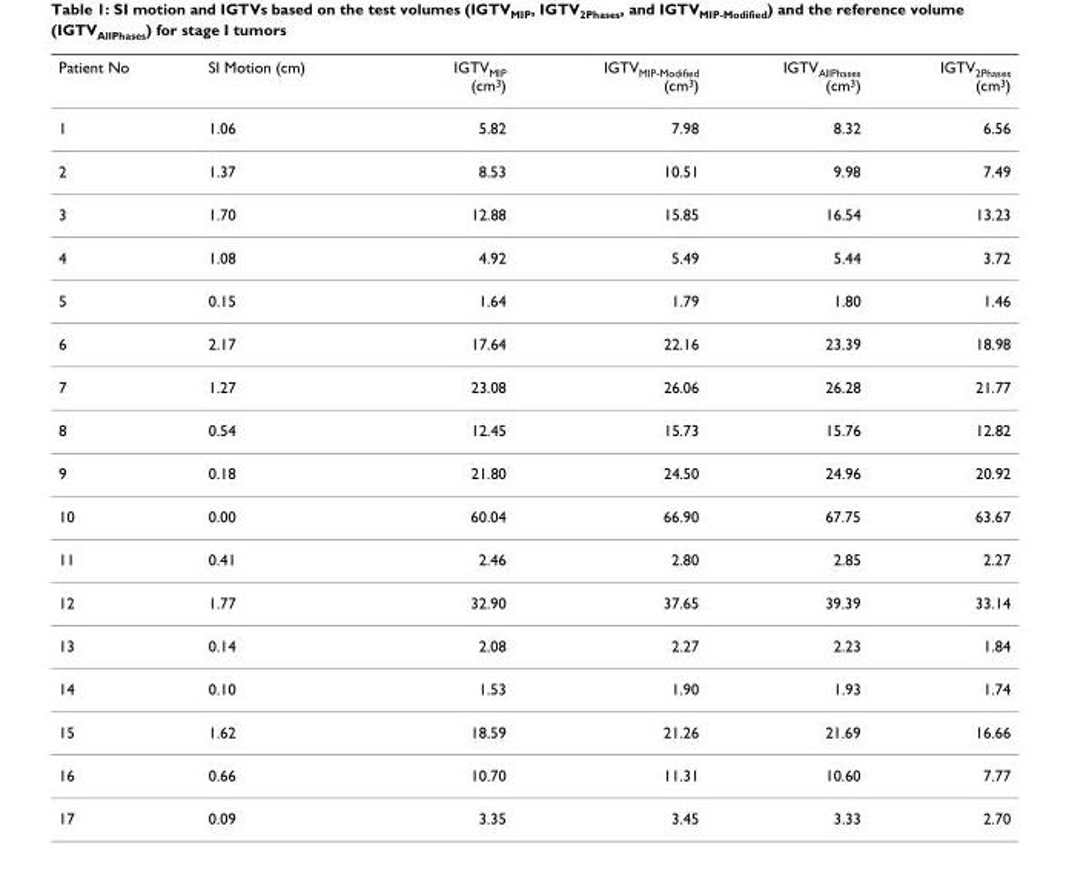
<table><thead><tr><td>Patient No</td><td>SI Motion (cm)</td><td>IGTV<sub>MIP</sub> (cm<sup>3</sup>)</td><td>IGTV<sub>MIP-Modified</sub> (cm<sup>3</sup>)</td><td>IGTV<sub>AllPhases</sub> (cm<sup>3</sup>)</td><td>IGTV<sub>2Phases</sub> (cm<sup>3</sup>)</td></tr></thead><tbody><tr><td>1</td><td>1.06</td><td>5.82</td><td>7.98</td><td>8.32</td><td>6.56</td></tr><tr><td>2</td><td>1.37</td><td>8.53</td><td>10.51</td><td>9.98</td><td>7.49</td></tr><tr><td>3</td><td>1.70</td><td>12.88</td><td>15.85</td><td>16.54</td><td>13.23</td></tr><tr><td>4</td><td>1.08</td><td>4.92</td><td>5.49</td><td>5.44</td><td>3.72</td></tr><tr><td>5</td><td>0.15</td><td>1.64</td><td>1.79</td><td>1.80</td><td>1.46</td></tr><tr><td>6</td><td>2.17</td><td>17.64</td><td>22.16</td><td>23.39</td><td>18.98</td></tr><tr><td>7</td><td>1.27</td><td>23.08</td><td>26.06</td><td>26.28</td><td>21.77</td></tr><tr><td>8</td><td>0.54</td><td>12.45</td><td>15.73</td><td>15.76</td><td>12.82</td></tr><tr><td>9</td><td>0.18</td><td>21.80</td><td>24.50</td><td>24.96</td><td>20.92</td></tr><tr><td>10</td><td>0.00</td><td>60.04</td><td>66.90</td><td>67.75</td><td>63.67</td></tr><tr><td>11</td><td>0.41</td><td>2.46</td><td>2.80</td><td>2.85</td><td>2.27</td></tr><tr><td>12</td><td>1.77</td><td>32.90</td><td>37.65</td><td>39.39</td><td>33.14</td></tr><tr><td>13</td><td>0.14</td><td>2.08</td><td>2.27</td><td>2.23</td><td>1.84</td></tr><tr><td>14</td><td>0.10</td><td>1.53</td><td>1.90</td><td>1.93</td><td>1.74</td></tr><tr><td>15</td><td>1.62</td><td>18.59</td><td>21.26</td><td>21.69</td><td>16.66</td></tr><tr><td>16</td><td>0.66</td><td>10.70</td><td>11.31</td><td>10.60</td><td>7.77</td></tr><tr><td>17</td><td>0.09</td><td>3.35</td><td>3.45</td><td>3.33</td><td>2.70</td></tr></tbody></table>